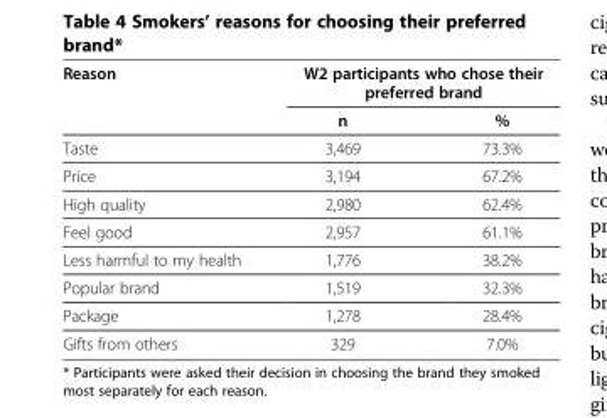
<table><thead><tr><td rowspan="2">Reason</td><td colspan="2">W2 participants who chose their preferred brand</td></tr><tr><td>n</td><td>%</td></tr></thead><tbody><tr><td>Taste</td><td>3,469</td><td>73.3%</td></tr><tr><td>Price</td><td>3,194</td><td>67.2%</td></tr><tr><td>High quality</td><td>2,980</td><td>62.4%</td></tr><tr><td>Feel good</td><td>2,957</td><td>61.1%</td></tr><tr><td>Less harmful to my health</td><td>1,776</td><td>38.2%</td></tr><tr><td>Popular brand</td><td>1,519</td><td>32.3%</td></tr><tr><td>Package</td><td>1,278</td><td>28.4%</td></tr><tr><td>Gifts from others</td><td>329</td><td>7.0%</td></tr></tbody></table>